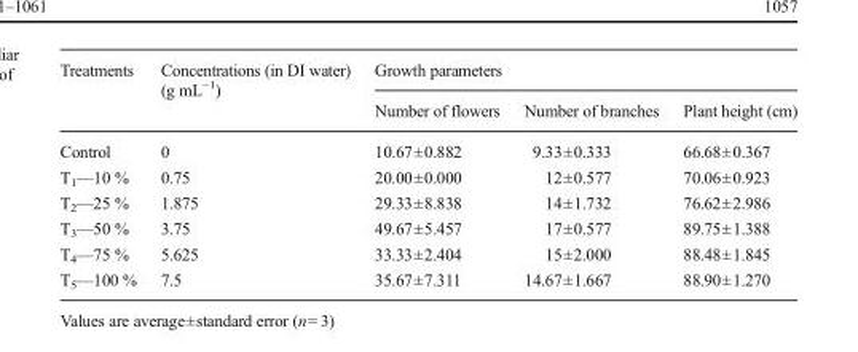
<table><thead><tr><td rowspan="2">Treatments</td><td rowspan="2">Concentrations (in DI water) (g mL<sup>−1</sup>)</td><td colspan="3">Growth parameters</td></tr><tr><td>Number of flowers</td><td>Number of branches</td><td>Plant height (cm)</td></tr></thead><tbody><tr><td>Control</td><td>0</td><td>10.67±0.882</td><td>9.33±0.333</td><td>66.68±0.367</td></tr><tr><td>T<sub>1</sub>—10 %</td><td>0.75</td><td>20.00±0.000</td><td>12±0.577</td><td>70.06±0.923</td></tr><tr><td>T<sub>2</sub>—25 %</td><td>1.875</td><td>29.33±8.838</td><td>14±1.732</td><td>76.62±2.986</td></tr><tr><td>T<sub>3</sub>—50 %</td><td>3.75</td><td>49.67±5.457</td><td>17±0.577</td><td>89.75±1.388</td></tr><tr><td>T<sub>4</sub>—75 %</td><td>5.625</td><td>33.33±2.404</td><td>15±2.000</td><td>88.48±1.845</td></tr><tr><td>T<sub>5</sub>—100 %</td><td>7.5</td><td>35.67±7.311</td><td>14.67±1.667</td><td>88.90±1.270</td></tr></tbody></table>